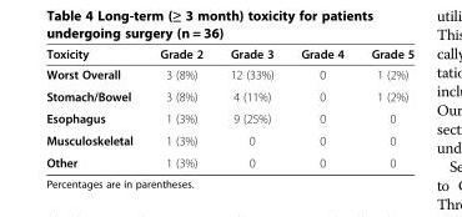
<table><thead><tr><td>Toxicity</td><td>Grade 2</td><td>Grade 3</td><td>Grade 4</td><td>Grade 5</td></tr></thead><tbody><tr><td>Worst Overall</td><td>3 (8%)</td><td>12 (33%)</td><td>0</td><td>1 (2%)</td></tr><tr><td>Stomach/Bowel</td><td>3 (8%)</td><td>4 (11%)</td><td>0</td><td>1 (2%)</td></tr><tr><td>Esophagus</td><td>1 (3%)</td><td>9 (25%)</td><td>0</td><td>0</td></tr><tr><td>Musculoskeletal</td><td>1 (3%)</td><td>0</td><td>0</td><td>0</td></tr><tr><td>Other</td><td>1 (3%)</td><td>0</td><td>0</td><td>0</td></tr></tbody></table>